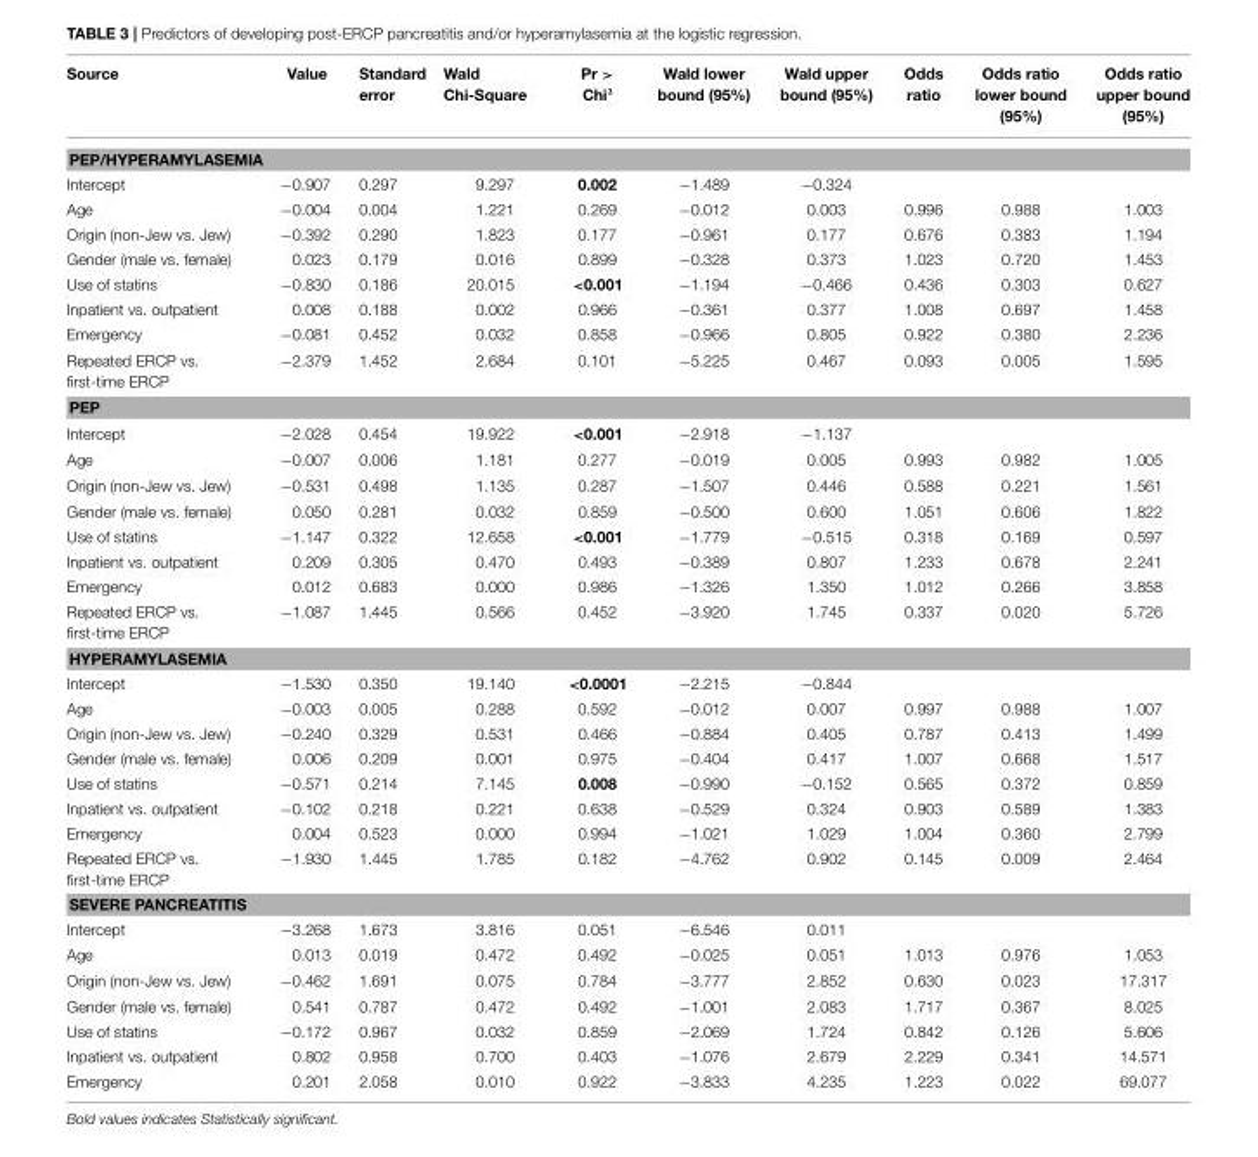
<table><thead><tr><td>Source</td><td>Value</td><td>Standard error</td><td>Wald Chi-Square</td><td>Pr &gt; Chi²</td><td>Wald lower bound (95%)</td><td>Wald upper bound (95%)</td><td>Odds ratio</td><td>Odds ratio lower bound (95%)</td><td>Odds ratio upper bound (95%)</td></tr></thead><tbody><tr><td colspan="10">PEP/HYPERAMYLASEMIA</td></tr><tr><td>Intercept</td><td>−0.907</td><td>0.297</td><td>9.297</td><td>0.002</td><td>−1.489</td><td>−0.324</td><td></td><td></td><td></td></tr><tr><td>Age</td><td>−0.004</td><td>0.004</td><td>1.221</td><td>0.269</td><td>−0.012</td><td>0.003</td><td>0.996</td><td>0.988</td><td>1.003</td></tr><tr><td>Origin (non-Jew vs. Jew)</td><td>−0.392</td><td>0.290</td><td>1.823</td><td>0.177</td><td>−0.961</td><td>0.177</td><td>0.676</td><td>0.383</td><td>1.194</td></tr><tr><td>Gender (male vs. female)</td><td>0.023</td><td>0.179</td><td>0.016</td><td>0.899</td><td>−0.328</td><td>0.373</td><td>1.023</td><td>0.720</td><td>1.453</td></tr><tr><td>Use of statins</td><td>−0.830</td><td>0.186</td><td>20.015</td><td>&lt;0.001</td><td>−1.194</td><td>−0.466</td><td>0.436</td><td>0.303</td><td>0.627</td></tr><tr><td>Inpatient vs. outpatient</td><td>0.008</td><td>0.188</td><td>0.002</td><td>0.966</td><td>−0.361</td><td>0.377</td><td>1.008</td><td>0.697</td><td>1.458</td></tr><tr><td>Emergency</td><td>−0.081</td><td>0.452</td><td>0.032</td><td>0.858</td><td>−0.966</td><td>0.805</td><td>0.922</td><td>0.380</td><td>2.236</td></tr><tr><td>Repeated ERCP vs. first-time ERCP</td><td>−2.379</td><td>1.452</td><td>2.684</td><td>0.101</td><td>−5.225</td><td>0.467</td><td>0.093</td><td>0.005</td><td>1.595</td></tr><tr><td colspan="10">PEP</td></tr><tr><td>Intercept</td><td>−2.028</td><td>0.454</td><td>19.922</td><td>&lt;0.001</td><td>−2.918</td><td>−1.137</td><td></td><td></td><td></td></tr><tr><td>Age</td><td>−0.007</td><td>0.006</td><td>1.181</td><td>0.277</td><td>−0.019</td><td>0.005</td><td>0.993</td><td>0.982</td><td>1.005</td></tr><tr><td>Origin (non-Jew vs. Jew)</td><td>−0.531</td><td>0.498</td><td>1.135</td><td>0.287</td><td>−1.507</td><td>0.446</td><td>0.588</td><td>0.221</td><td>1.561</td></tr><tr><td>Gender (male vs. female)</td><td>0.050</td><td>0.281</td><td>0.032</td><td>0.859</td><td>−0.500</td><td>0.600</td><td>1.051</td><td>0.606</td><td>1.822</td></tr><tr><td>Use of statins</td><td>−1.147</td><td>0.322</td><td>12.658</td><td>&lt;0.001</td><td>−1.779</td><td>−0.515</td><td>0.318</td><td>0.169</td><td>0.597</td></tr><tr><td>Inpatient vs. outpatient</td><td>0.209</td><td>0.305</td><td>0.470</td><td>0.493</td><td>−0.389</td><td>0.807</td><td>1.233</td><td>0.678</td><td>2.241</td></tr><tr><td>Emergency</td><td>0.012</td><td>0.683</td><td>0.000</td><td>0.986</td><td>−1.326</td><td>1.350</td><td>1.012</td><td>0.266</td><td>3.858</td></tr><tr><td>Repeated ERCP vs. first-time ERCP</td><td>−1.087</td><td>1.445</td><td>0.566</td><td>0.452</td><td>−3.920</td><td>1.745</td><td>0.337</td><td>0.020</td><td>5.726</td></tr><tr><td colspan="10">HYPERAMYLASEMIA</td></tr><tr><td>Intercept</td><td>−1.530</td><td>0.350</td><td>19.140</td><td>&lt;0.0001</td><td>−2.215</td><td>−0.844</td><td></td><td></td><td></td></tr><tr><td>Age</td><td>−0.003</td><td>0.005</td><td>0.288</td><td>0.592</td><td>−0.012</td><td>0.007</td><td>0.997</td><td>0.988</td><td>1.007</td></tr><tr><td>Origin (non-Jew vs. Jew)</td><td>−0.240</td><td>0.329</td><td>0.531</td><td>0.466</td><td>−0.884</td><td>0.405</td><td>0.787</td><td>0.413</td><td>1.499</td></tr><tr><td>Gender (male vs. female)</td><td>0.006</td><td>0.209</td><td>0.001</td><td>0.975</td><td>−0.404</td><td>0.417</td><td>1.007</td><td>0.668</td><td>1.517</td></tr><tr><td>Use of statins</td><td>−0.571</td><td>0.214</td><td>7.145</td><td>0.008</td><td>−0.990</td><td>−0.152</td><td>0.565</td><td>0.372</td><td>0.859</td></tr><tr><td>Inpatient vs. outpatient</td><td>−0.102</td><td>0.218</td><td>0.221</td><td>0.638</td><td>−0.529</td><td>0.324</td><td>0.903</td><td>0.589</td><td>1.383</td></tr><tr><td>Emergency</td><td>0.004</td><td>0.523</td><td>0.000</td><td>0.994</td><td>−1.021</td><td>1.029</td><td>1.004</td><td>0.360</td><td>2.799</td></tr><tr><td>Repeated ERCP vs. first-time ERCP</td><td>−1.930</td><td>1.445</td><td>1.785</td><td>0.182</td><td>−4.762</td><td>0.902</td><td>0.145</td><td>0.009</td><td>2.464</td></tr><tr><td colspan="10">SEVERE PANCREATITIS</td></tr><tr><td>Intercept</td><td>−3.268</td><td>1.673</td><td>3.816</td><td>0.051</td><td>−6.546</td><td>0.011</td><td></td><td></td><td></td></tr><tr><td>Age</td><td>0.013</td><td>0.019</td><td>0.472</td><td>0.492</td><td>−0.025</td><td>0.051</td><td>1.013</td><td>0.976</td><td>1.053</td></tr><tr><td>Origin (non-Jew vs. Jew)</td><td>−0.462</td><td>1.691</td><td>0.075</td><td>0.784</td><td>−3.777</td><td>2.852</td><td>0.630</td><td>0.023</td><td>17.317</td></tr><tr><td>Gender (male vs. female)</td><td>0.541</td><td>0.787</td><td>0.472</td><td>0.492</td><td>−1.001</td><td>2.083</td><td>1.717</td><td>0.367</td><td>8.025</td></tr><tr><td>Use of statins</td><td>−0.172</td><td>0.967</td><td>0.032</td><td>0.859</td><td>−2.069</td><td>1.724</td><td>0.842</td><td>0.126</td><td>5.606</td></tr><tr><td>Inpatient vs. outpatient</td><td>0.802</td><td>0.958</td><td>0.700</td><td>0.403</td><td>−1.076</td><td>2.679</td><td>2.229</td><td>0.341</td><td>14.571</td></tr><tr><td>Emergency</td><td>0.201</td><td>2.058</td><td>0.010</td><td>0.922</td><td>−3.833</td><td>4.235</td><td>1.223</td><td>0.022</td><td>69.077</td></tr></tbody></table>